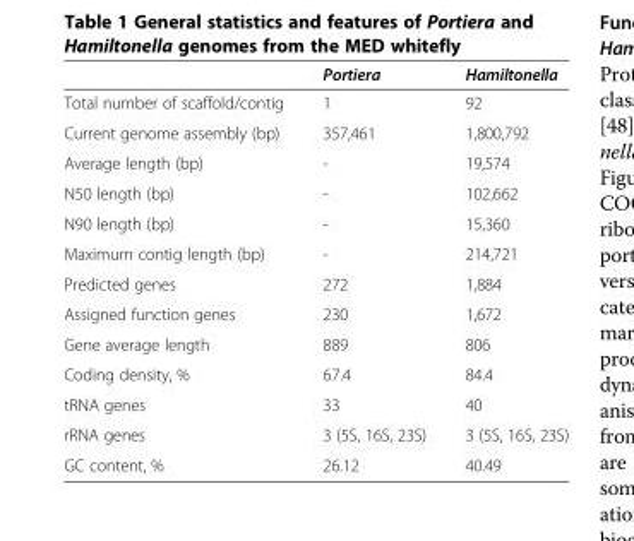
<table><thead><tr><td></td><td>Portiera</td><td>Hamiltonella</td></tr></thead><tbody><tr><td>Total number of scaffold/contig</td><td>1</td><td>92</td></tr><tr><td>Current genome assembly (bp)</td><td>357,461</td><td>1,800,792</td></tr><tr><td>Average length (bp)</td><td>-</td><td>19,574</td></tr><tr><td>N50 length (bp)</td><td>-</td><td>102,662</td></tr><tr><td>N90 length (bp)</td><td>-</td><td>15,360</td></tr><tr><td>Maximum contig length (bp)</td><td>-</td><td>214,721</td></tr><tr><td>Predicted genes</td><td>272</td><td>1,884</td></tr><tr><td>Assigned function genes</td><td>230</td><td>1,672</td></tr><tr><td>Gene average length</td><td>889</td><td>806</td></tr><tr><td>Coding density, %</td><td>67.4</td><td>84.4</td></tr><tr><td>tRNA genes</td><td>33</td><td>40</td></tr><tr><td>rRNA genes</td><td>3 (5S, 16S, 23S)</td><td>3 (5S, 16S, 23S)</td></tr><tr><td>GC content, %</td><td>26.12</td><td>40.49</td></tr></tbody></table>